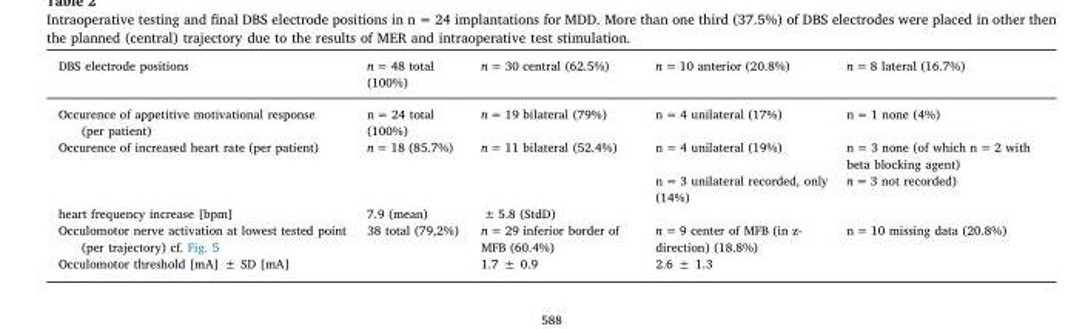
<table><thead><tr><td>DBS electrode positions</td><td>n = 48 total (100%)</td><td>n = 30 central (62.5%)</td><td>n = 10 anterior (20.8%)</td><td>n = 8 lateral (16.7%)</td></tr></thead><tbody><tr><td>Occurence of appetitive motivational response (per patient)</td><td>n = 24 total (100%)</td><td>n = 19 bilateral (79%)</td><td>n = 4 unilateral (17%)</td><td>n = 1 none (4%)</td></tr><tr><td rowspan="2">Occurence of increased heart rate (per patient)</td><td rowspan="2">n = 18 (85.7%)</td><td rowspan="2">n = 11 bilateral (52.4%)</td><td>n = 4 unilateral (19%)</td><td>n = 3 none (of which n = 2 with beta blocking agent)</td></tr><tr><td>n = 3 unilateral recorded, only (14%)</td><td>n = 3 not recorded)</td></tr><tr><td>heart frequency increase [bpm]</td><td>7.9 (mean)</td><td>± 5.8 (StdD)</td><td></td><td></td></tr><tr><td>Occulomotor nerve activation at lowest tested point (per trajectory) cf. Fig. 5</td><td>38 total (79,2%)</td><td>n = 29 inferior border of MFB (60.4%)</td><td>n = 9 center of MFB (in z- direction) (18.8%)</td><td>n = 10 missing data (20.8%)</td></tr><tr><td>Occulomotor threshold [mA] ± SD [mA]</td><td></td><td>1.7 ± 0.9</td><td>2.6 ± 1.3</td><td></td></tr></tbody></table>